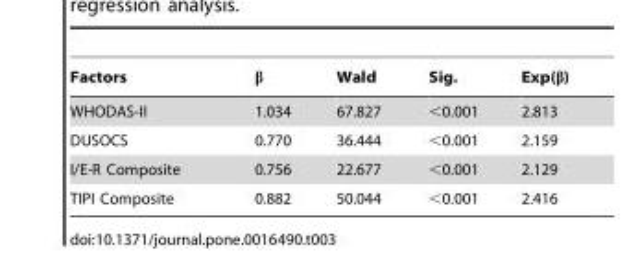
<table><thead><tr><td>Factors</td><td>β</td><td>Wald</td><td>Sig.</td><td>Exp(β)</td></tr></thead><tbody><tr><td>WHODAS-II</td><td>1.034</td><td>67.827</td><td>&lt;0.001</td><td>2.813</td></tr><tr><td>DUSOCS</td><td>0.770</td><td>36.444</td><td>&lt;0.001</td><td>2.159</td></tr><tr><td>I/E-R Composite</td><td>0.756</td><td>22.677</td><td>&lt;0.001</td><td>2.129</td></tr><tr><td>TIPI Composite</td><td>0.882</td><td>50.044</td><td>&lt;0.001</td><td>2.416</td></tr></tbody></table>